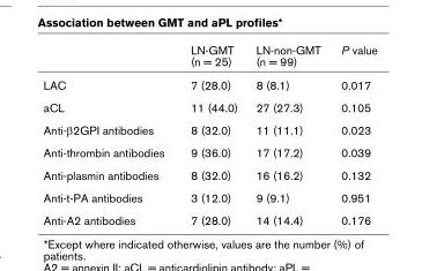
<table><thead><tr><td></td><td>LN-GMT (n = 25)</td><td>LN-non-GMT (n = 99)</td><td>P value</td></tr></thead><tbody><tr><td>LAC</td><td>7 (28.0)</td><td>8 (8.1)</td><td>0.017</td></tr><tr><td>aCL</td><td>11 (44.0)</td><td>27 (27.3)</td><td>0.105</td></tr><tr><td>Anti-β2GPI antibodies</td><td>8 (32.0)</td><td>11 (11.1)</td><td>0.023</td></tr><tr><td>Anti-thrombin antibodies</td><td>9 (36.0)</td><td>17 (17.2)</td><td>0.039</td></tr><tr><td>Anti-plasmin antibodies</td><td>8 (32.0)</td><td>16 (16.2)</td><td>0.132</td></tr><tr><td>Anti-t-PA antibodies</td><td>3 (12.0)</td><td>9 (9.1)</td><td>0.951</td></tr><tr><td>Anti-A2 antibodies</td><td>7 (28.0)</td><td>14 (14.4)</td><td>0.176</td></tr></tbody></table>